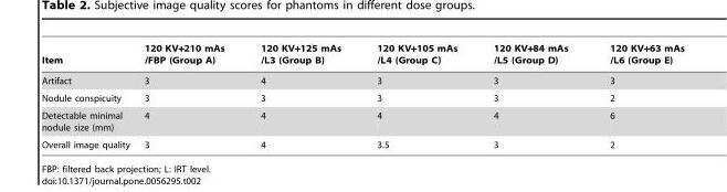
<table><thead><tr><td>Item</td><td>120 KV+210 mAs /FBP (Group A)</td><td>120 KV+125 mAs /L3 (Group B)</td><td>120 KV+105 mAs /L4 (Group C)</td><td>120 KV+84 mAs /L5 (Group D)</td><td>120 KV+63 mAs /L6 (Group E)</td></tr></thead><tbody><tr><td>Artifact</td><td>3</td><td>4</td><td>3</td><td>3</td><td>3</td></tr><tr><td>Nodule conspicuity</td><td>3</td><td>3</td><td>3</td><td>3</td><td>2</td></tr><tr><td>Detectable minimal nodule size (mm)</td><td>4</td><td>4</td><td>4</td><td>4</td><td>6</td></tr><tr><td>Overall image quality</td><td>3</td><td>4</td><td>3.5</td><td>3</td><td>2</td></tr></tbody></table>